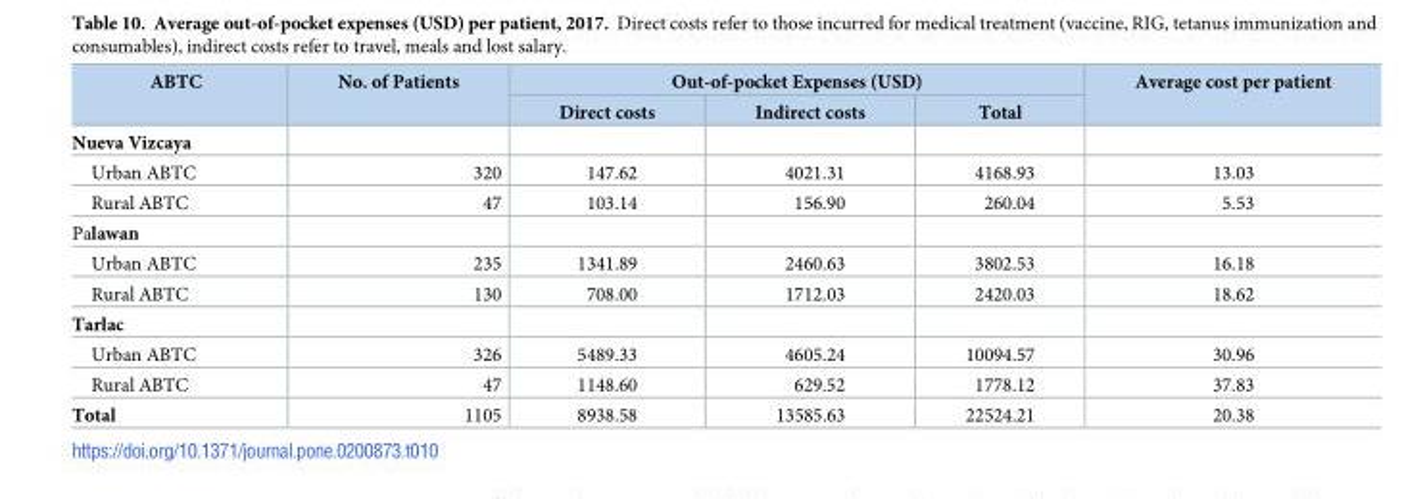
<table><thead><tr><td rowspan="2">ABTC</td><td rowspan="2">No. of Patients</td><td colspan="3">Out-of-pocket Expenses (USD)</td><td rowspan="2">Average cost per patient</td></tr><tr><td>Direct costs</td><td>Indirect costs</td><td>Total</td></tr></thead><tbody><tr><td colspan="6">Nueva Vizcaya</td></tr><tr><td>Urban ABTC</td><td>320</td><td>147.62</td><td>4021.31</td><td>4168.93</td><td>13.03</td></tr><tr><td>Rural ABTC</td><td>47</td><td>103.14</td><td>156.90</td><td>260.04</td><td>5.53</td></tr><tr><td colspan="6">Palawan</td></tr><tr><td>Urban ABTC</td><td>235</td><td>1341.89</td><td>2460.63</td><td>3802.53</td><td>16.18</td></tr><tr><td>Rural ABTC</td><td>130</td><td>708.00</td><td>1712.03</td><td>2420.03</td><td>18.62</td></tr><tr><td colspan="6">Tarlac</td></tr><tr><td>Urban ABTC</td><td>326</td><td>5489.33</td><td>4605.24</td><td>10094.57</td><td>30.96</td></tr><tr><td>Rural ABTC</td><td>47</td><td>1148.60</td><td>629.52</td><td>1778.12</td><td>37.83</td></tr><tr><td>Total</td><td>1105</td><td>8938.58</td><td>13585.63</td><td>22524.21</td><td>20.38</td></tr></tbody></table>